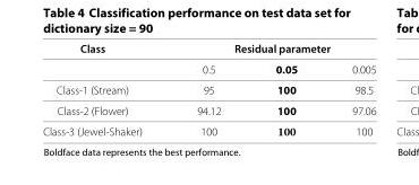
<table><thead><tr><td rowspan="2">Class</td><td colspan="3">Residual parameter</td></tr><tr><td>0.5</td><td>0.05</td><td>0.005</td></tr></thead><tbody><tr><td>Class-1 (Stream)</td><td>95</td><td>100</td><td>98.5</td></tr><tr><td>Class-2 (Flower)</td><td>94.12</td><td>100</td><td>97.06</td></tr><tr><td>Class-3 (Jewel-Shaker)</td><td>100</td><td>100</td><td>100</td></tr></tbody></table>